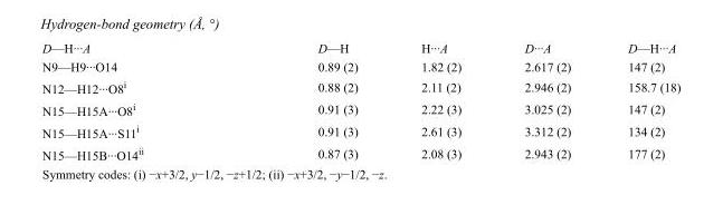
<table><tbody><tr><td>D—H···A</td><td>D—H</td><td>H···A</td><td>D···A</td><td>D—H···A</td></tr><tr><td>N9—H9···O14</td><td>0.89 (2)</td><td>1.82 (2)</td><td>2.617 (2)</td><td>147 (2)</td></tr><tr><td>N12—H12···O8<sup>i</sup></td><td>0.88 (2)</td><td>2.11 (2)</td><td>2.946 (2)</td><td>158.7 (18)</td></tr><tr><td>N15—H15A···O8<sup>i</sup></td><td>0.91 (3)</td><td>2.22 (3)</td><td>3.025 (2)</td><td>147 (2)</td></tr><tr><td>N15—H15A···S11<sup>i</sup></td><td>0.91 (3)</td><td>2.61 (3)</td><td>3.312 (2)</td><td>134 (2)</td></tr><tr><td>N15—H15B···O14<sup>ii</sup></td><td>0.87 (3)</td><td>2.08 (3)</td><td>2.943 (2)</td><td>177 (2)</td></tr></tbody></table>